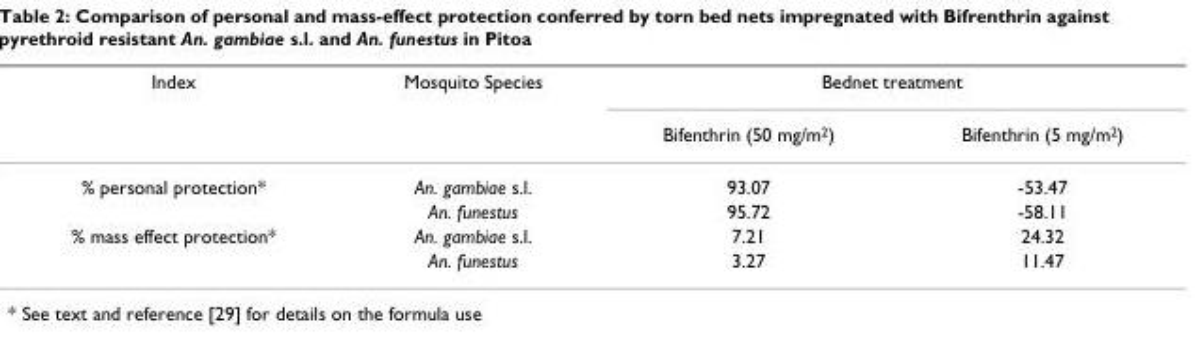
<table><thead><tr><td rowspan="2">Index</td><td rowspan="2">Mosquito Species</td><td colspan="2">Bednet treatment</td></tr><tr><td>Bifenthrin (50 mg/m<sup>2</sup>)</td><td>Bifenthrin (5 mg/m<sup>2</sup>)</td></tr></thead><tbody><tr><td rowspan="2">% personal protection*</td><td>An. gambiae s.l.</td><td>93.07</td><td>-53.47</td></tr><tr><td>An. funestus</td><td>95.72</td><td>-58.11</td></tr><tr><td rowspan="2">% mass effect protection*</td><td>An. gambiae s.l.</td><td>7.21</td><td>24.32</td></tr><tr><td>An. funestus</td><td>3.27</td><td>11.47</td></tr></tbody></table>